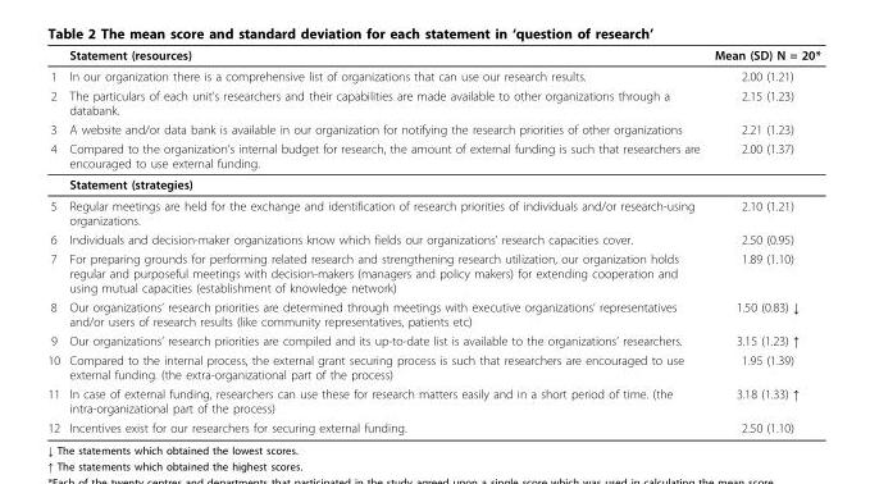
<table><thead><tr><td></td><td>Statement (resources)</td><td>Mean (SD) N = 20*</td></tr></thead><tbody><tr><td>1</td><td>In our organization there is a comprehensive list of organizations that can use our research results.</td><td>2.00 (1.21)</td></tr><tr><td>2</td><td>The particulars of each unit’s researchers and their capabilities are made available to other organizations through a databank.</td><td>2.15 (1.23)</td></tr><tr><td>3</td><td>A website and/or data bank is available in our organization for notifying the research priorities of other organizations</td><td>2.21 (1.23)</td></tr><tr><td rowspan="2">4</td><td>Compared to the organization’s internal budget for research, the amount of external funding is such that researchers are encouraged to use external funding.</td><td>2.00 (1.37)</td></tr><tr><td>Statement (strategies)</td><td></td></tr><tr><td>5</td><td>Regular meetings are held for the exchange and identification of research priorities of individuals and/or research-using organizations.</td><td>2.10 (1.21)</td></tr><tr><td>6</td><td>Individuals and decision-maker organizations know which fields our organizations’ research capacities cover.</td><td>2.50 (0.95)</td></tr><tr><td>7</td><td>For preparing grounds for performing related research and strengthening research utilization, our organization holds regular and purposeful meetings with decision-makers (managers and policy makers) for extending cooperation and using mutual capacities (establishment of knowledge network)</td><td>1.89 (1.10)</td></tr><tr><td>8</td><td>Our organizations’ research priorities are determined through meetings with executive organizations’ representatives and/or users of research results (like community representatives, patients etc)</td><td>1.50 (0.83) ↓</td></tr><tr><td>9</td><td>Our organizations’ research priorities are compiled and its up-to-date list is available to the organizations’ researchers.</td><td>3.15 (1.23) ↑</td></tr><tr><td>10</td><td>Compared to the internal process, the external grant securing process is such that researchers are encouraged to use external funding. (the extra-organizational part of the process)</td><td>1.95 (1.39)</td></tr><tr><td>11</td><td>In case of external funding, researchers can use these for research matters easily and in a short period of time. (the intra-organizational part of the process)</td><td>3.18 (1.33) ↑</td></tr><tr><td>12</td><td>Incentives exist for our researchers for securing external funding.</td><td>2.50 (1.10)</td></tr></tbody></table>